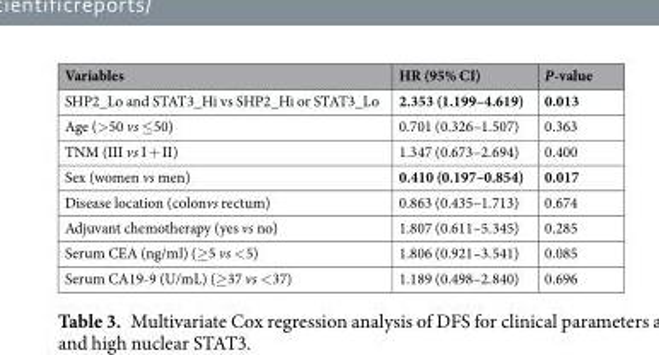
<table><thead><tr><td>Variables</td><td>HR (95% CI)</td><td>P-value</td></tr></thead><tbody><tr><td>SHP2_Lo and STAT3_Hi vs SHP2_Hi or STAT3_Lo</td><td>2.353 (1.199–4.619)</td><td>0.013</td></tr><tr><td>Age (&gt;50 vs ≤50)</td><td>0.701 (0.326–1.507)</td><td>0.363</td></tr><tr><td>TNM (III vs I + II)</td><td>1.347 (0.673–2.694)</td><td>0.400</td></tr><tr><td>Sex (women vs men)</td><td>0.410 (0.197–0.854)</td><td>0.017</td></tr><tr><td>Disease location (colonvs rectum)</td><td>0.863 (0.435–1.713)</td><td>0.674</td></tr><tr><td>Adjuvant chemotherapy (yes vs no)</td><td>1.807 (0.611–5.345)</td><td>0.285</td></tr><tr><td>Serum CEA (ng/ml) (≥5 vs &lt;5)</td><td>1.806 (0.921–3.541)</td><td>0.085</td></tr><tr><td>Serum CA19-9 (U/mL) (≥37 vs &lt;37)</td><td>1.189 (0.498–2.840)</td><td>0.696</td></tr></tbody></table>